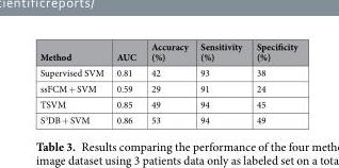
<table><thead><tr><td>Method</td><td>AUC</td><td>Accuracy (%)</td><td>Sensitivity (%)</td><td>Specificity (%)</td></tr></thead><tbody><tr><td>Supervised SVM</td><td>0.81</td><td>42</td><td>93</td><td>38</td></tr><tr><td>ssFCM + SVM</td><td>0.59</td><td>29</td><td>91</td><td>24</td></tr><tr><td>TSVM</td><td>0.85</td><td>49</td><td>94</td><td>45</td></tr><tr><td>S<sup>3</sup>DB + SVM</td><td>0.86</td><td>53</td><td>94</td><td>49</td></tr></tbody></table>